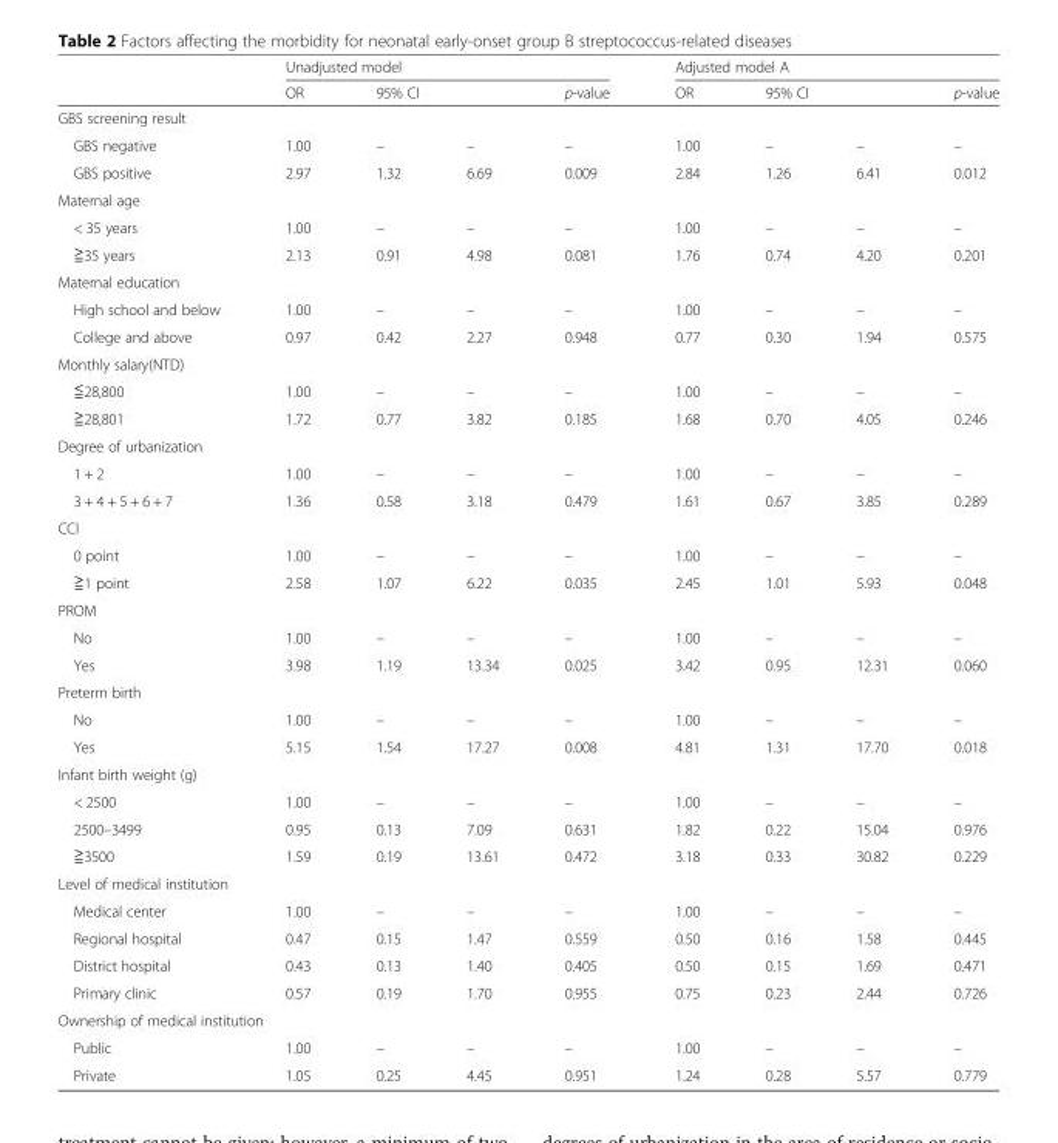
<table><thead><tr><td rowspan="2"></td><td colspan="4">Unadjusted model</td><td colspan="4">Adjusted model A</td></tr><tr><td>OR</td><td colspan="2">95% CI</td><td>p-value</td><td>OR</td><td colspan="2">95% CI</td><td>p-value</td></tr><tr><td colspan="9">GBS screening result</td></tr><tr><td>GBS negative</td><td>1.00</td><td>–</td><td>–</td><td>–</td><td>1.00</td><td>–</td><td>–</td><td>–</td></tr></thead><tbody><tr><td>GBS positive</td><td>2.97</td><td>1.32</td><td>6.69</td><td>0.009</td><td>2.84</td><td>1.26</td><td>6.41</td><td>0.012</td></tr><tr><td colspan="9">Maternal age</td></tr><tr><td>&lt; 35 years</td><td>1.00</td><td>–</td><td>–</td><td>–</td><td>1.00</td><td>–</td><td>–</td><td>–</td></tr><tr><td>≧35 years</td><td>2.13</td><td>0.91</td><td>4.98</td><td>0.081</td><td>1.76</td><td>0.74</td><td>4.20</td><td>0.201</td></tr><tr><td colspan="9">Maternal education</td></tr><tr><td>High school and below</td><td>1.00</td><td>–</td><td>–</td><td>–</td><td>1.00</td><td>–</td><td>–</td><td>–</td></tr><tr><td>College and above</td><td>0.97</td><td>0.42</td><td>2.27</td><td>0.948</td><td>0.77</td><td>0.30</td><td>1.94</td><td>0.575</td></tr><tr><td colspan="9">Monthly salary(NTD)</td></tr><tr><td>≦28,800</td><td>1.00</td><td>–</td><td>–</td><td>–</td><td>1.00</td><td>–</td><td>–</td><td>–</td></tr><tr><td>≧28,801</td><td>1.72</td><td>0.77</td><td>3.82</td><td>0.185</td><td>1.68</td><td>0.70</td><td>4.05</td><td>0.246</td></tr><tr><td colspan="9">Degree of urbanization</td></tr><tr><td>1 + 2</td><td>1.00</td><td>–</td><td>–</td><td>–</td><td>1.00</td><td>–</td><td>–</td><td>–</td></tr><tr><td>3 + 4 + 5 + 6 + 7</td><td>1.36</td><td>0.58</td><td>3.18</td><td>0.479</td><td>1.61</td><td>0.67</td><td>3.85</td><td>0.289</td></tr><tr><td colspan="9">CCI</td></tr><tr><td>0 point</td><td>1.00</td><td>–</td><td>–</td><td>–</td><td>1.00</td><td>–</td><td>–</td><td>–</td></tr><tr><td>≧1 point</td><td>2.58</td><td>1.07</td><td>6.22</td><td>0.035</td><td>2.45</td><td>1.01</td><td>5.93</td><td>0.048</td></tr><tr><td colspan="9">PROM</td></tr><tr><td>No</td><td>1.00</td><td>–</td><td>–</td><td>–</td><td>1.00</td><td>–</td><td>–</td><td>–</td></tr><tr><td>Yes</td><td>3.98</td><td>1.19</td><td>13.34</td><td>0.025</td><td>3.42</td><td>0.95</td><td>12.31</td><td>0.060</td></tr><tr><td colspan="9">Preterm birth</td></tr><tr><td>No</td><td>1.00</td><td>–</td><td>–</td><td>–</td><td>1.00</td><td>–</td><td>–</td><td>–</td></tr><tr><td>Yes</td><td>5.15</td><td>1.54</td><td>17.27</td><td>0.008</td><td>4.81</td><td>1.31</td><td>17.70</td><td>0.018</td></tr><tr><td colspan="9">Infant birth weight (g)</td></tr><tr><td>&lt; 2500</td><td>1.00</td><td>–</td><td>–</td><td>–</td><td>1.00</td><td>–</td><td>–</td><td>–</td></tr><tr><td>2500–3499</td><td>0.95</td><td>0.13</td><td>7.09</td><td>0.631</td><td>1.82</td><td>0.22</td><td>15.04</td><td>0.976</td></tr><tr><td>≧3500</td><td>1.59</td><td>0.19</td><td>13.61</td><td>0.472</td><td>3.18</td><td>0.33</td><td>30.82</td><td>0.229</td></tr><tr><td colspan="9">Level of medical institution</td></tr><tr><td>Medical center</td><td>1.00</td><td>–</td><td>–</td><td>–</td><td>1.00</td><td>–</td><td>–</td><td>–</td></tr><tr><td>Regional hospital</td><td>0.47</td><td>0.15</td><td>1.47</td><td>0.559</td><td>0.50</td><td>0.16</td><td>1.58</td><td>0.445</td></tr><tr><td>District hospital</td><td>0.43</td><td>0.13</td><td>1.40</td><td>0.405</td><td>0.50</td><td>0.15</td><td>1.69</td><td>0.471</td></tr><tr><td>Primary clinic</td><td>0.57</td><td>0.19</td><td>1.70</td><td>0.955</td><td>0.75</td><td>0.23</td><td>2.44</td><td>0.726</td></tr><tr><td colspan="9">Ownership of medical institution</td></tr><tr><td>Public</td><td>1.00</td><td>–</td><td>–</td><td>–</td><td>1.00</td><td>–</td><td>–</td><td>–</td></tr><tr><td>Private</td><td>1.05</td><td>0.25</td><td>4.45</td><td>0.951</td><td>1.24</td><td>0.28</td><td>5.57</td><td>0.779</td></tr></tbody></table>